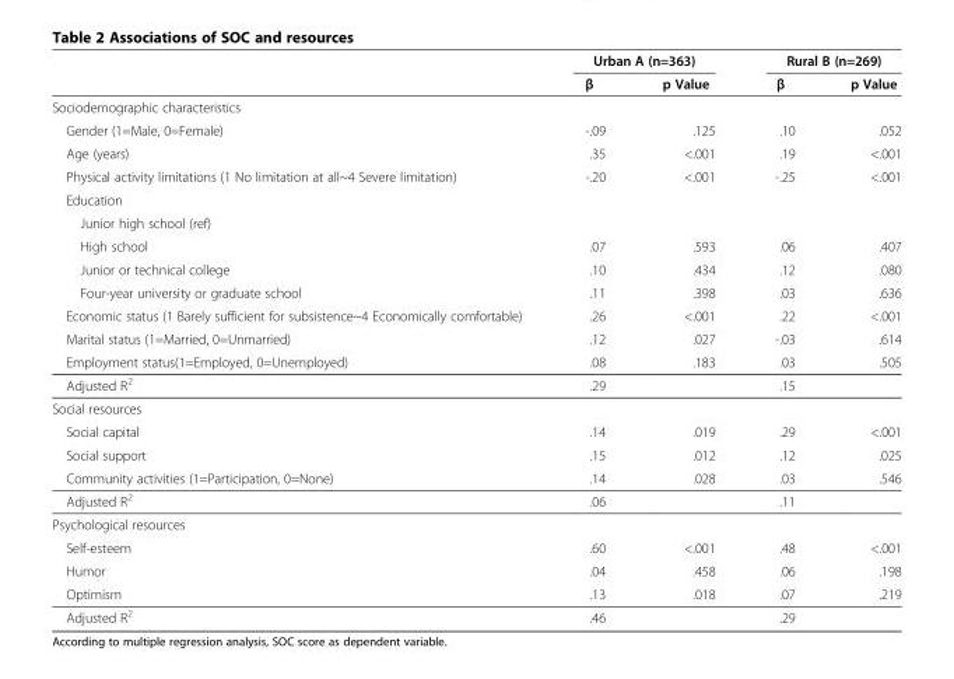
<table><thead><tr><td rowspan="2"></td><td colspan="2">Urban A (n=363)</td><td colspan="2">Rural B (n=269)</td></tr><tr><td>β</td><td>p Value</td><td>β</td><td>p Value</td></tr></thead><tbody><tr><td colspan="5">Sociodemographic characteristics</td></tr><tr><td>Gender (1=Male, 0=Female)</td><td>-.09</td><td>.125</td><td>.10</td><td>.052</td></tr><tr><td>Age (years)</td><td>.35</td><td>&lt;.001</td><td>.19</td><td>&lt;.001</td></tr><tr><td>Physical activity limitations (1 No limitation at all~4 Severe limitation)</td><td>-.20</td><td>&lt;.001</td><td>-.25</td><td>&lt;.001</td></tr><tr><td colspan="5">Education</td></tr><tr><td colspan="5">Junior high school (ref)</td></tr><tr><td>High school</td><td>.07</td><td>.593</td><td>.06</td><td>.407</td></tr><tr><td>Junior or technical college</td><td>.10</td><td>.434</td><td>.12</td><td>.080</td></tr><tr><td>Four-year university or graduate school</td><td>.11</td><td>.398</td><td>.03</td><td>.636</td></tr><tr><td>Economic status (1 Barely sufficient for subsistence~4 Economically comfortable)</td><td>.26</td><td>&lt;.001</td><td>.22</td><td>&lt;.001</td></tr><tr><td>Marital status (1=Married, 0=Unmarried)</td><td>.12</td><td>.027</td><td>-.03</td><td>.614</td></tr><tr><td>Employment status(1=Employed, 0=Unemployed)</td><td>.08</td><td>.183</td><td>.03</td><td>.505</td></tr><tr><td>Adjusted R<sup>2</sup></td><td>.29</td><td></td><td>.15</td><td></td></tr><tr><td colspan="5">Social resources</td></tr><tr><td>Social capital</td><td>.14</td><td>.019</td><td>.29</td><td>&lt;.001</td></tr><tr><td>Social support</td><td>.15</td><td>.012</td><td>.12</td><td>.025</td></tr><tr><td>Community activities (1=Participation, 0=None)</td><td>.14</td><td>.028</td><td>.03</td><td>.546</td></tr><tr><td>Adjusted R<sup>2</sup></td><td>.06</td><td></td><td>.11</td><td></td></tr><tr><td colspan="5">Psychological resources</td></tr><tr><td>Self-esteem</td><td>.60</td><td>&lt;.001</td><td>.48</td><td>&lt;.001</td></tr><tr><td>Humor</td><td>.04</td><td>.458</td><td>.06</td><td>.198</td></tr><tr><td>Optimism</td><td>.13</td><td>.018</td><td>.07</td><td>.219</td></tr><tr><td>Adjusted R<sup>2</sup></td><td>.46</td><td></td><td>.29</td><td></td></tr></tbody></table>